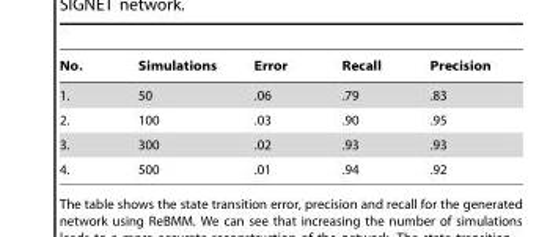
<table><thead><tr><td>No.</td><td>Simulations</td><td>Error</td><td>Recall</td><td>Precision</td></tr></thead><tbody><tr><td>1.</td><td>50</td><td>.06</td><td>.79</td><td>.83</td></tr><tr><td>2.</td><td>100</td><td>.03</td><td>.90</td><td>.95</td></tr><tr><td>3.</td><td>300</td><td>.02</td><td>.93</td><td>.93</td></tr><tr><td>4.</td><td>500</td><td>.01</td><td>.94</td><td>.92</td></tr></tbody></table>